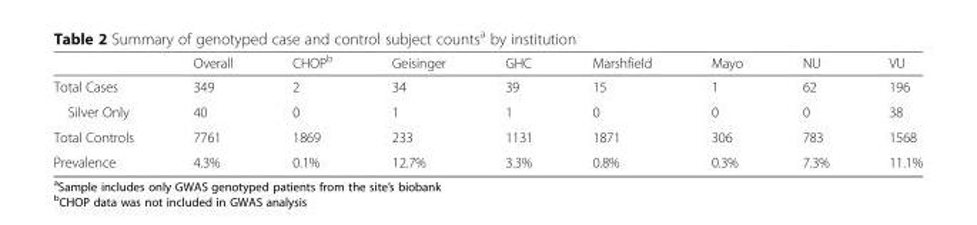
<table><thead><tr><td></td><td>Overall</td><td>CHOP<sup>b</sup></td><td>Geisinger</td><td>GHC</td><td>Marshfield</td><td>Mayo</td><td>NU</td><td>VU</td></tr></thead><tbody><tr><td>Total Cases</td><td>349</td><td>2</td><td>34</td><td>39</td><td>15</td><td>1</td><td>62</td><td>196</td></tr><tr><td>Silver Only</td><td>40</td><td>0</td><td>1</td><td>1</td><td>0</td><td>0</td><td>0</td><td>38</td></tr><tr><td>Total Controls</td><td>7761</td><td>1869</td><td>233</td><td>1131</td><td>1871</td><td>306</td><td>783</td><td>1568</td></tr><tr><td>Prevalence</td><td>4.3%</td><td>0.1%</td><td>12.7%</td><td>3.3%</td><td>0.8%</td><td>0.3%</td><td>7.3%</td><td>11.1%</td></tr></tbody></table>